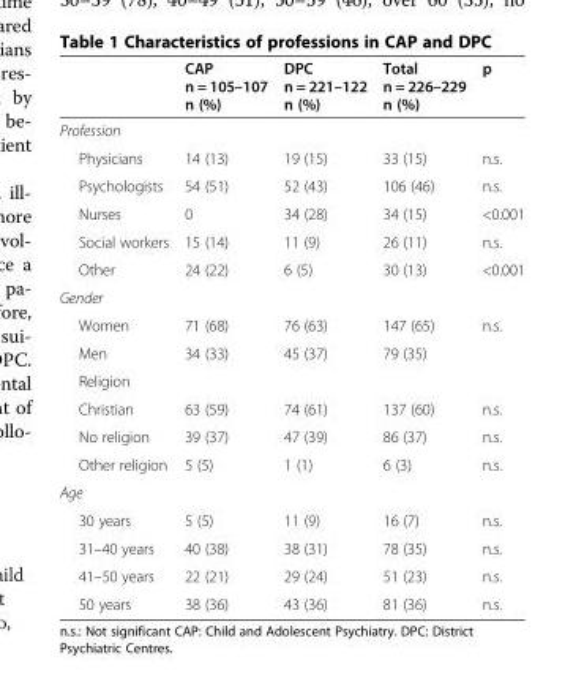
<table><thead><tr><td></td><td>CAP n = 105–107 n (%)</td><td>DPC n = 221–122 n (%)</td><td>Total n = 226–229 n (%)</td><td>p</td></tr></thead><tbody><tr><td colspan="5">Profession</td></tr><tr><td>Physicians</td><td>14 (13)</td><td>19 (15)</td><td>33 (15)</td><td>n.s.</td></tr><tr><td>Psychologists</td><td>54 (51)</td><td>52 (43)</td><td>106 (46)</td><td>n.s.</td></tr><tr><td>Nurses</td><td>0</td><td>34 (28)</td><td>34 (15)</td><td>&lt;0.001</td></tr><tr><td>Social workers</td><td>15 (14)</td><td>11 (9)</td><td>26 (11)</td><td>n.s.</td></tr><tr><td>Other</td><td>24 (22)</td><td>6 (5)</td><td>30 (13)</td><td>&lt;0.001</td></tr><tr><td colspan="5">Gender</td></tr><tr><td>Women</td><td>71 (68)</td><td>76 (63)</td><td>147 (65)</td><td>n.s.</td></tr><tr><td>Men</td><td>34 (33)</td><td>45 (37)</td><td>79 (35)</td><td></td></tr><tr><td colspan="5">Religion</td></tr><tr><td>Christian</td><td>63 (59)</td><td>74 (61)</td><td>137 (60)</td><td>n.s.</td></tr><tr><td>No religion</td><td>39 (37)</td><td>47 (39)</td><td>86 (37)</td><td>n.s.</td></tr><tr><td>Other religion</td><td>5 (5)</td><td>1 (1)</td><td>6 (3)</td><td>n.s.</td></tr><tr><td colspan="5">Age</td></tr><tr><td>30 years</td><td>5 (5)</td><td>11 (9)</td><td>16 (7)</td><td>n.s.</td></tr><tr><td>31–40 years</td><td>40 (38)</td><td>38 (31)</td><td>78 (35)</td><td>n.s.</td></tr><tr><td>41–50 years</td><td>22 (21)</td><td>29 (24)</td><td>51 (23)</td><td>n.s.</td></tr><tr><td>50 years</td><td>38 (36)</td><td>43 (36)</td><td>81 (36)</td><td>n.s.</td></tr></tbody></table>